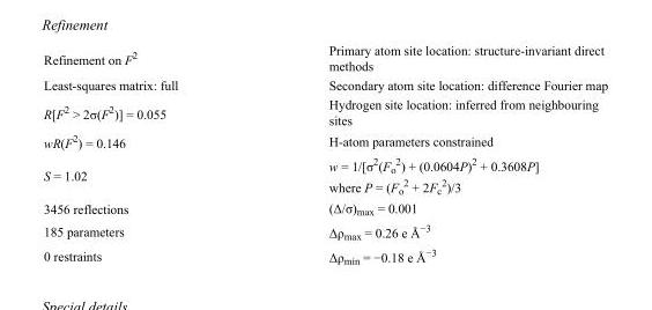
<table><tbody><tr><td>Refinement on F<sup>2</sup></td><td>Primary atom site location: structure-invariant direct methods</td></tr><tr><td>Least-squares matrix: full</td><td>Secondary atom site location: difference Fourier map</td></tr><tr><td>R[F<sup>2</sup> &gt; 2σ(F<sup>2</sup>)] = 0.055</td><td>Hydrogen site location: inferred from neighbouring sites</td></tr><tr><td>wR(F<sup>2</sup>) = 0.146</td><td>H-atom parameters constrained</td></tr><tr><td>S = 1.02</td><td>w = 1/[σ<sup>2</sup>(F<sub>o</sub> <sup>2</sup>) + (0.0604P)<sup>2</sup> + 0.3608P] where P = (F<sub>o</sub> <sup>2</sup> + 2F<sub>c</sub> <sup>2</sup>)/3</td></tr><tr><td>3456 reflections</td><td>(Δ/σ)<sub>max</sub> = 0.001</td></tr><tr><td>185 parameters</td><td>Δρ<sub>max</sub> = 0.26 e Å<sup>−3</sup></td></tr><tr><td>0 restraints</td><td>Δρ<sub>min</sub> = −0.18 e Å<sup>−3</sup></td></tr></tbody></table>